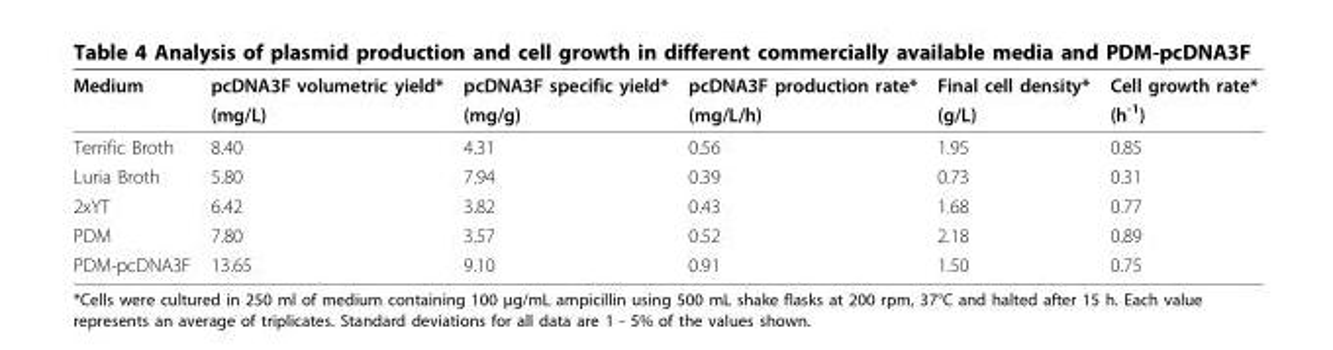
<table><thead><tr><td rowspan="2">Medium</td><td rowspan="2">pcDNA3F volumetric yield* (mg/L)</td><td rowspan="2">pcDNA3F specific yield* (mg/g)</td><td rowspan="2">pcDNA3F production rate* (mg/L/h)</td><td rowspan="2">Final cell density* (g/L)</td><td rowspan="2">Cell growth rate* (h<sup>-1</sup>)</td></tr><tr></tr></thead><tbody><tr><td>Terrific Broth</td><td>8.40</td><td>4.31</td><td>0.56</td><td>1.95</td><td>0.85</td></tr><tr><td>Luria Broth</td><td>5.80</td><td>7.94</td><td>0.39</td><td>0.73</td><td>0.31</td></tr><tr><td>2xYT</td><td>6.42</td><td>3.82</td><td>0.43</td><td>1.68</td><td>0.77</td></tr><tr><td>PDM</td><td>7.80</td><td>3.57</td><td>0.52</td><td>2.18</td><td>0.89</td></tr><tr><td>PDM-pcDNA3F</td><td>13.65</td><td>9.10</td><td>0.91</td><td>1.50</td><td>0.75</td></tr></tbody></table>